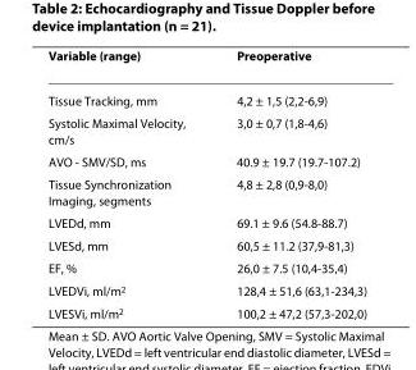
<table><thead><tr><td>Variable (range)</td><td>Preoperative</td></tr></thead><tbody><tr><td>Tissue Tracking, mm</td><td>4,2 ± 1,5 (2,2-6,9)</td></tr><tr><td>Systolic Maximal Velocity, cm/s</td><td>3,0 ± 0,7 (1,8-4,6)</td></tr><tr><td>AVO - SMV/SD, ms</td><td>40.9 ± 19.7 (19.7-107.2)</td></tr><tr><td>Tissue Synchronization Imaging, segments</td><td>4,8 ± 2,8 (0,9-8,0)</td></tr><tr><td>LVEDd, mm</td><td>69.1 ± 9.6 (54.8-88.7)</td></tr><tr><td>LVESd, mm</td><td>60,5 ± 11.2 (37,9-81,3)</td></tr><tr><td>EF, %</td><td>26,0 ± 7.5 (10,4-35,4)</td></tr><tr><td>LVEDVi, ml/m<sup>2</sup></td><td>128,4 ± 51,6 (63,1-234,3)</td></tr><tr><td>LVESVi, ml/m<sup>2</sup></td><td>100,2 ± 47,2 (57,3-202,0)</td></tr></tbody></table>